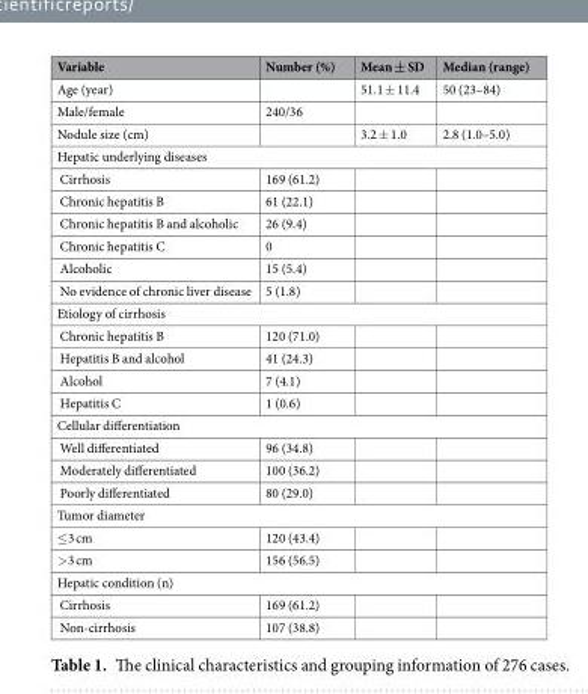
<table><thead><tr><td>Variable</td><td>Number (%)</td><td>Mean ± SD</td><td>Median (range)</td></tr></thead><tbody><tr><td>Age (year)</td><td></td><td>51.1 ± 11.4</td><td>50 (23–84)</td></tr><tr><td>Male/female</td><td>240/36</td><td></td><td></td></tr><tr><td>Nodule size (cm)</td><td></td><td>3.2 ± 1.0</td><td>2.8 (1.0–5.0)</td></tr><tr><td colspan="4">Hepatic underlying diseases</td></tr><tr><td>Cirrhosis</td><td>169 (61.2)</td><td></td><td></td></tr><tr><td>Chronic hepatitis B</td><td>61 (22.1)</td><td></td><td></td></tr><tr><td>Chronic hepatitis B and alcoholic</td><td>26 (9.4)</td><td></td><td></td></tr><tr><td>Chronic hepatitis C</td><td>0</td><td></td><td></td></tr><tr><td>Alcoholic</td><td>15 (5.4)</td><td></td><td></td></tr><tr><td>No evidence of chronic liver disease</td><td>5 (1.8)</td><td></td><td></td></tr><tr><td colspan="4">Etiology of cirrhosis</td></tr><tr><td>Chronic hepatitis B</td><td>120 (71.0)</td><td></td><td></td></tr><tr><td>Hepatitis B and alcohol</td><td>41 (24.3)</td><td></td><td></td></tr><tr><td>Alcohol</td><td>7 (4.1)</td><td></td><td></td></tr><tr><td>Hepatitis C</td><td>1 (0.6)</td><td></td><td></td></tr><tr><td colspan="4">Cellular differentiation</td></tr><tr><td>Well differentiated</td><td>96 (34.8)</td><td></td><td></td></tr><tr><td>Moderately differentiated</td><td>100 (36.2)</td><td></td><td></td></tr><tr><td>Poorly differentiated</td><td>80 (29.0)</td><td></td><td></td></tr><tr><td colspan="4">Tumor diameter</td></tr><tr><td>≤3 cm</td><td>120 (43.4)</td><td></td><td></td></tr><tr><td>&gt;3 cm</td><td>156 (56.5)</td><td></td><td></td></tr><tr><td colspan="4">Hepatic condition (n)</td></tr><tr><td>Cirrhosis</td><td>169 (61.2)</td><td></td><td></td></tr><tr><td>Non-cirrhosis</td><td>107 (38.8)</td><td></td><td></td></tr></tbody></table>